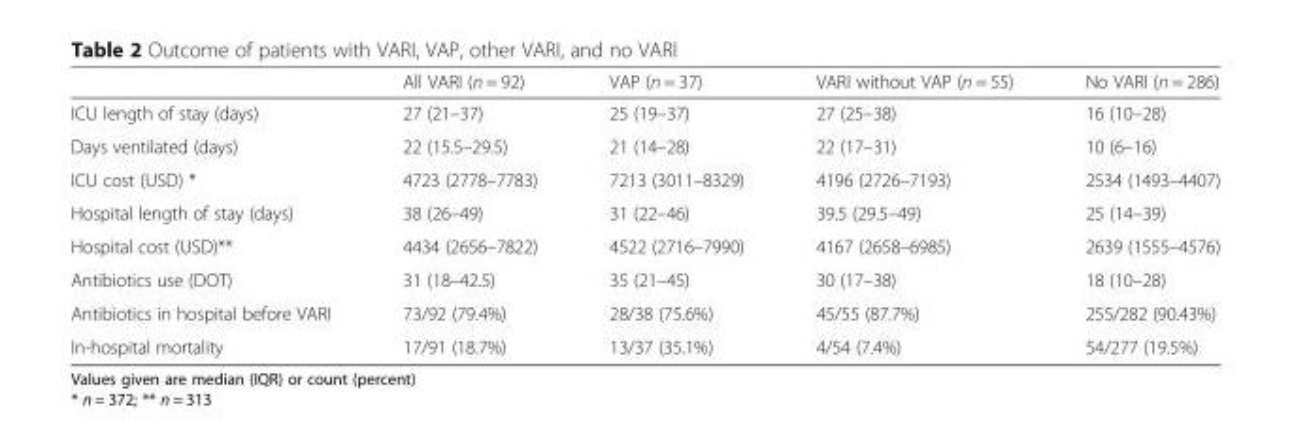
<table><thead><tr><td></td><td>All VARI (n = 92)</td><td>VAP (n = 37)</td><td>VARI without VAP (n = 55)</td><td>No VARI (n = 286)</td></tr></thead><tbody><tr><td>ICU length of stay (days)</td><td>27 (21–37)</td><td>25 (19–37)</td><td>27 (25–38)</td><td>16 (10–28)</td></tr><tr><td>Days ventilated (days)</td><td>22 (15.5–29.5)</td><td>21 (14–28)</td><td>22 (17–31)</td><td>10 (6–16)</td></tr><tr><td>ICU cost (USD) *</td><td>4723 (2778–7783)</td><td>7213 (3011–8329)</td><td>4196 (2726–7193)</td><td>2534 (1493–4407)</td></tr><tr><td>Hospital length of stay (days)</td><td>38 (26–49)</td><td>31 (22–46)</td><td>39.5 (29.5–49)</td><td>25 (14–39)</td></tr><tr><td>Hospital cost (USD)**</td><td>4434 (2656–7822)</td><td>4522 (2716–7990)</td><td>4167 (2658–6985)</td><td>2639 (1555–4576)</td></tr><tr><td>Antibiotics use (DOT)</td><td>31 (18–42.5)</td><td>35 (21–45)</td><td>30 (17–38)</td><td>18 (10–28)</td></tr><tr><td>Antibiotics in hospital before VARI</td><td>73/92 (79.4%)</td><td>28/38 (75.6%)</td><td>45/55 (87.7%)</td><td>255/282 (90.43%)</td></tr><tr><td>In-hospital mortality</td><td>17/91 (18.7%)</td><td>13/37 (35.1%)</td><td>4/54 (7.4%)</td><td>54/277 (19.5%)</td></tr></tbody></table>